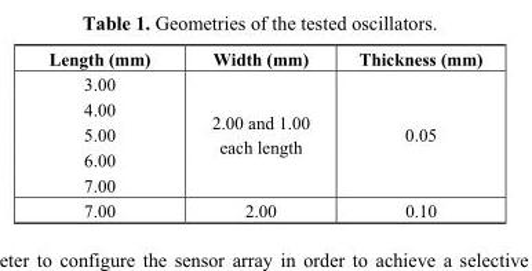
<table><thead><tr><td>Length (mm)</td><td>Width (mm)</td><td>Thickness (mm)</td></tr></thead><tbody><tr><td>3.00</td><td rowspan="5">2.00 and 1.00 each length</td><td rowspan="5">0.05</td></tr><tr><td>4.00</td></tr><tr><td>5.00</td></tr><tr><td>6.00</td></tr><tr><td>7.00</td></tr><tr><td>7.00</td><td>2.00</td><td>0.10</td></tr></tbody></table>